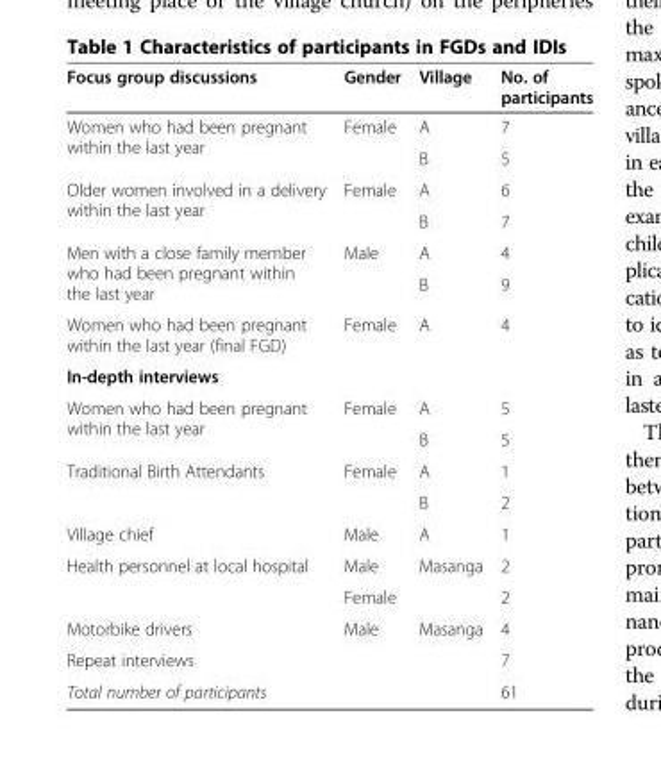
<table><thead><tr><td>Focus group discussions</td><td>Gender</td><td>Village</td><td>No. of participants</td></tr></thead><tbody><tr><td rowspan="2">Women who had been pregnant within the last year</td><td rowspan="2">Female</td><td>A</td><td>7</td></tr><tr><td>B</td><td>5</td></tr><tr><td rowspan="2">Older women involved in a delivery within the last year</td><td rowspan="2">Female</td><td>A</td><td>6</td></tr><tr><td>B</td><td>7</td></tr><tr><td rowspan="2">Men with a close family member who had been pregnant within the last year</td><td rowspan="2">Male</td><td>A</td><td>4</td></tr><tr><td>B</td><td>9</td></tr><tr><td>Women who had been pregnant within the last year (final FGD)</td><td>Female</td><td>A</td><td>4</td></tr><tr><td colspan="4">In-depth interviews</td></tr><tr><td rowspan="2">Women who had been pregnant within the last year</td><td rowspan="2">Female</td><td>A</td><td>5</td></tr><tr><td>B</td><td>5</td></tr><tr><td rowspan="2">Traditional Birth Attendants</td><td rowspan="2">Female</td><td>A</td><td>1</td></tr><tr><td>B</td><td>2</td></tr><tr><td>Village chief</td><td>Male</td><td>A</td><td>1</td></tr><tr><td rowspan="2">Health personnel at local hospital</td><td>Male</td><td rowspan="2">Masanga</td><td>2</td></tr><tr><td>Female</td><td>2</td></tr><tr><td>Motorbike drivers</td><td>Male</td><td>Masanga</td><td>4</td></tr><tr><td colspan="3">Repeat interviews</td><td>7</td></tr><tr><td colspan="3">Total number of participants</td><td>61</td></tr></tbody></table>